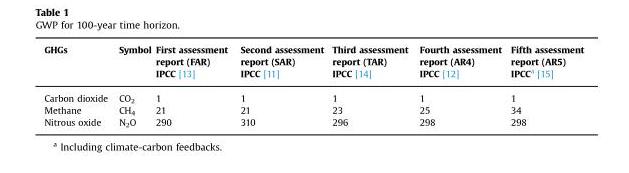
<table><thead><tr><td>GHGs</td><td>Symbol</td><td>First assessment report (FAR) IPCC [13]</td><td>Second assessment report (SAR) IPCC [11]</td><td>Third assessment report (TAR) IPCC [14]</td><td>Fourth assessment report (AR4) IPCC [12]</td><td>Fifth assessment report (AR5) IPCC<sup>a</sup> [15]</td></tr></thead><tbody><tr><td>Carbon dioxide</td><td>CO<sub>2</sub></td><td>1</td><td>1</td><td>1</td><td>1</td><td>1</td></tr><tr><td>Methane</td><td>CH<sub>4</sub></td><td>21</td><td>21</td><td>23</td><td>25</td><td>34</td></tr><tr><td>Nitrous oxide</td><td>N<sub>2</sub>O</td><td>290</td><td>310</td><td>296</td><td>298</td><td>298</td></tr></tbody></table>